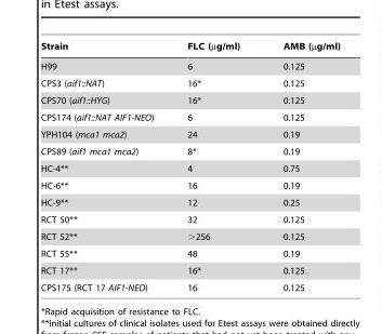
<table><thead><tr><td>Strain</td><td>FLC (µg/ml)</td><td>AMB (µg/ml)</td></tr></thead><tbody><tr><td>H99</td><td>6</td><td>0.125</td></tr><tr><td>CPS3 (aif1::NAT)</td><td>16*</td><td>0.125</td></tr><tr><td>CPS70 (aif1::HYG)</td><td>16*</td><td>0.125</td></tr><tr><td>CPS174 (aif1::NAT AIF1-NEO)</td><td>6</td><td>0.125</td></tr><tr><td>YPH104 (mca1 mca2)</td><td>24</td><td>0.19</td></tr><tr><td>CPS89 (aif1 mca1 mca2)</td><td>8*</td><td>0.19</td></tr><tr><td>HC-4**</td><td>4</td><td>0.75</td></tr><tr><td>HC-6**</td><td>16</td><td>0.19</td></tr><tr><td>HC-9**</td><td>12</td><td>0.25</td></tr><tr><td>RCT 50**</td><td>32</td><td>0.125</td></tr><tr><td>RCT 52**</td><td>&gt;256</td><td>0.125</td></tr><tr><td>RCT 55**</td><td>48</td><td>0.19</td></tr><tr><td>RCT 17**</td><td>16*</td><td>0.125</td></tr><tr><td>CPS175 (RCT 17 AIF1-NEO)</td><td>16</td><td>0.125</td></tr></tbody></table>